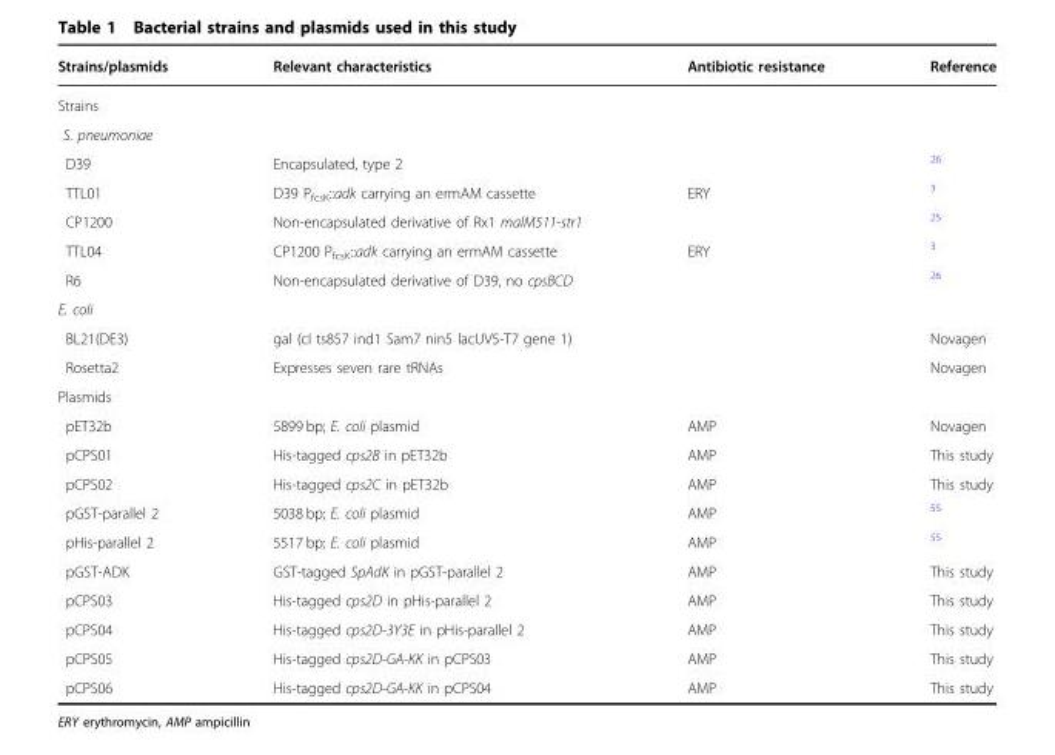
<table><thead><tr><td>Strains/plasmids</td><td>Relevant characteristics</td><td>Antibiotic resistance</td><td>Reference</td></tr></thead><tbody><tr><td colspan="4">Strains</td></tr><tr><td colspan="4">S. pneumoniae</td></tr><tr><td>D39</td><td>Encapsulated, type 2</td><td></td><td><sup>26</sup></td></tr><tr><td>TTL01</td><td>D39 P<sub>fcsK</sub>::adk carrying an ermAM cassette</td><td>ERY</td><td><sup>3</sup></td></tr><tr><td>CP1200</td><td>Non-encapsulated derivative of Rx1 malM511-str1</td><td></td><td><sup>25</sup></td></tr><tr><td>TTL04</td><td>CP1200 P<sub>fcsK</sub>::adk carrying an ermAM cassette</td><td>ERY</td><td><sup>3</sup></td></tr><tr><td>R6</td><td>Non-encapsulated derivative of D39, no cpsBCD</td><td></td><td><sup>26</sup></td></tr><tr><td colspan="4">E. coli</td></tr><tr><td>BL21(DE3)</td><td>gal (cI ts857 ind1 Sam7 nin5 lacUV5-T7 gene 1)</td><td></td><td>Novagen</td></tr><tr><td>Rosetta2</td><td>Expresses seven rare tRNAs</td><td></td><td>Novagen</td></tr><tr><td colspan="4">Plasmids</td></tr><tr><td>pET32b</td><td>5899 bp; E. coli plasmid</td><td>AMP</td><td>Novagen</td></tr><tr><td>pCPS01</td><td>His-tagged cps2B in pET32b</td><td>AMP</td><td>This study</td></tr><tr><td>pCPS02</td><td>His-tagged cps2C in pET32b</td><td>AMP</td><td>This study</td></tr><tr><td>pGST-parallel 2</td><td>5038 bp; E. coli plasmid</td><td>AMP</td><td><sup>55</sup></td></tr><tr><td>pHis-parallel 2</td><td>5517 bp; E. coli plasmid</td><td>AMP</td><td><sup>55</sup></td></tr><tr><td>pGST-ADK</td><td>GST-tagged SpAdK in pGST-parallel 2</td><td>AMP</td><td>This study</td></tr><tr><td>pCPS03</td><td>His-tagged cps2D in pHis-parallel 2</td><td>AMP</td><td>This study</td></tr><tr><td>pCPS04</td><td>His-tagged cps2D-3Y3E in pHis-parallel 2</td><td>AMP</td><td>This study</td></tr><tr><td>pCPS05</td><td>His-tagged cps2D-GA-KK in pCPS03</td><td>AMP</td><td>This study</td></tr><tr><td>pCPS06</td><td>His-tagged cps2D-GA-KK in pCPS04</td><td>AMP</td><td>This study</td></tr></tbody></table>